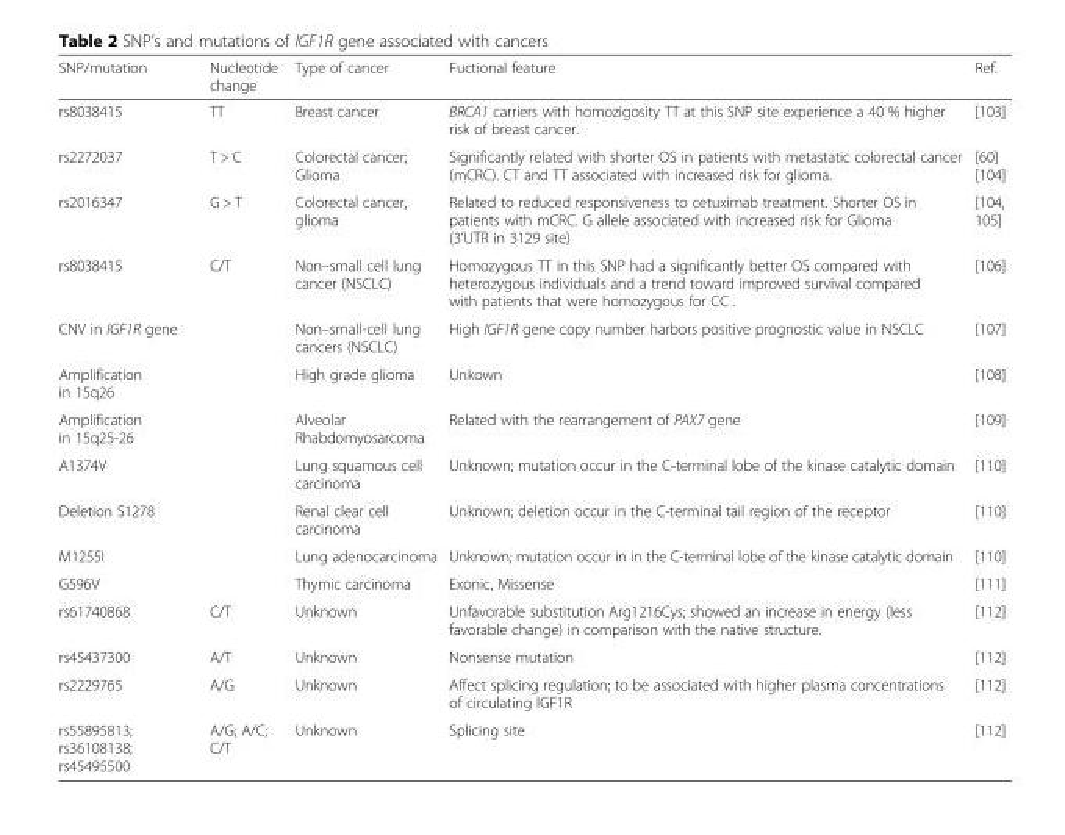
<table><thead><tr><td>SNP/mutation</td><td>Nucleotide change</td><td>Type of cancer</td><td>Fuctional feature</td><td>Ref.</td></tr></thead><tbody><tr><td>rs8038415</td><td>TT</td><td>Breast cancer</td><td>BRCA1 carriers with homozigosity TT at this SNP site experience a 40 % higher risk of breast cancer.</td><td>[103]</td></tr><tr><td>rs2272037</td><td>T &gt; C</td><td>Colorectal cancer; Glioma</td><td>Significantly related with shorter OS in patients with metastatic colorectal cancer (mCRC). CT and TT associated with increased risk for glioma.</td><td>[60] [104]</td></tr><tr><td>rs2016347</td><td>G &gt; T</td><td>Colorectal cancer, glioma</td><td>Related to reduced responsiveness to cetuximab treatment. Shorter OS in patients with mCRC. G allele associated with increased risk for Glioma (3’UTR in 3129 site)</td><td>[104, 105]</td></tr><tr><td>rs8038415</td><td>C/T</td><td>Non–small cell lung cancer (NSCLC)</td><td>Homozygous TT in this SNP had a significantly better OS compared with heterozygous individuals and a trend toward improved survival compared with patients that were homozygous for CC .</td><td>[106]</td></tr><tr><td>CNV in IGF1R gene</td><td></td><td>Non–small-cell lung cancers (NSCLC)</td><td>High IGF1R gene copy number harbors positive prognostic value in NSCLC</td><td>[107]</td></tr><tr><td>Amplification in 15q26</td><td></td><td>High grade glioma</td><td>Unkown</td><td>[108]</td></tr><tr><td>Amplification in 15q25-26</td><td></td><td>Alveolar Rhabdomyosarcoma</td><td>Related with the rearrangement of PAX7 gene</td><td>[109]</td></tr><tr><td>A1374V</td><td></td><td>Lung squamous cell carcinoma</td><td>Unknown; mutation occur in the C-terminal lobe of the kinase catalytic domain</td><td>[110]</td></tr><tr><td>Deletion S1278</td><td></td><td>Renal clear cell carcinoma</td><td>Unknown; deletion occur in the C-terminal tail region of the receptor</td><td>[110]</td></tr><tr><td>M1255I</td><td></td><td>Lung adenocarcinoma</td><td>Unknown; mutation occur in in the C-terminal lobe of the kinase catalytic domain</td><td>[110]</td></tr><tr><td>G596V</td><td></td><td>Thymic carcinoma</td><td>Exonic, Missense</td><td>[111]</td></tr><tr><td>rs61740868</td><td>C/T</td><td>Unknown</td><td>Unfavorable substitution Arg1216Cys; showed an increase in energy (less favorable change) in comparison with the native structure.</td><td>[112]</td></tr><tr><td>rs45437300</td><td>A/T</td><td>Unknown</td><td>Nonsense mutation</td><td>[112]</td></tr><tr><td>rs2229765</td><td>A/G</td><td>Unknown</td><td>Affect splicing regulation; to be associated with higher plasma concentrations of circulating IGF1R</td><td>[112]</td></tr><tr><td>rs55895813; rs36108138; rs45495500</td><td>A/G; A/C; C/T</td><td>Unknown</td><td>Splicing site</td><td>[112]</td></tr></tbody></table>